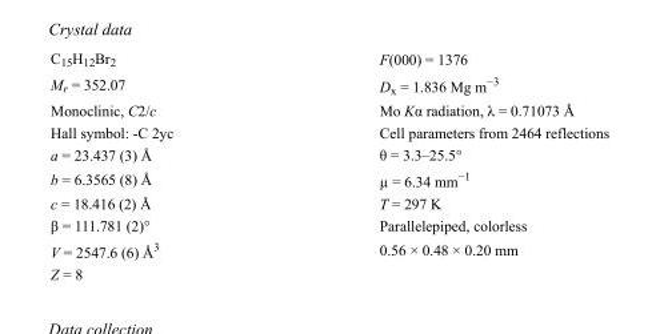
<table><tbody><tr><td>C<sub>15</sub>H<sub>12</sub>Br<sub>2</sub></td><td>F(000) = 1376</td></tr><tr><td>M<sub>r</sub> = 352.07</td><td>D<sub>x</sub> = 1.836 Mg m<sup>−3</sup></td></tr><tr><td>Monoclinic, C2/c</td><td>Mo Kα radiation, λ = 0.71073 Å</td></tr><tr><td>Hall symbol: -C 2yc</td><td>Cell parameters from 2464 reflections</td></tr><tr><td>a = 23.437 (3) Å</td><td>θ = 3.3–25.5°</td></tr><tr><td>b = 6.3565 (8) Å</td><td>µ = 6.34 mm<sup>−1</sup></td></tr><tr><td>c = 18.416 (2) Å</td><td>T = 297 K</td></tr><tr><td>β = 111.781 (2)°</td><td>Parallelepiped, colorless</td></tr><tr><td>V = 2547.6 (6) Å<sup>3</sup></td><td>0.56 × 0.48 × 0.20 mm</td></tr><tr><td>Z = 8</td><td></td></tr></tbody></table>